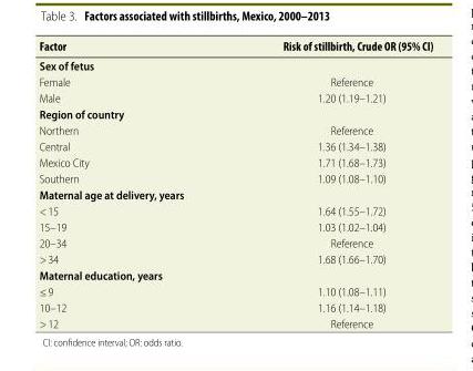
<table><thead><tr><td>Factor</td><td>Risk of stillbirth, Crude OR (95% CI)</td></tr></thead><tbody><tr><td colspan="2">Sex of fetus</td></tr><tr><td>Female</td><td>Reference</td></tr><tr><td>Male</td><td>1.20 (1.19–1.21)</td></tr><tr><td colspan="2">Region of country</td></tr><tr><td>Northern</td><td>Reference</td></tr><tr><td>Central</td><td>1.36 (1.34–1.38)</td></tr><tr><td>Mexico City</td><td>1.71 (1.68–1.73)</td></tr><tr><td>Southern</td><td>1.09 (1.08–1.10)</td></tr><tr><td colspan="2">Maternal age at delivery, years</td></tr><tr><td>&lt; 15</td><td>1.64 (1.55–1.72)</td></tr><tr><td>15–19</td><td>1.03 (1.02–1.04)</td></tr><tr><td>20–34</td><td>Reference</td></tr><tr><td>&gt; 34</td><td>1.68 (1.66–1.70)</td></tr><tr><td colspan="2">Maternal education, years</td></tr><tr><td>≤ 9</td><td>1.10 (1.08–1.11)</td></tr><tr><td>10–12</td><td>1.16 (1.14–1.18)</td></tr><tr><td>&gt; 12</td><td>Reference</td></tr></tbody></table>